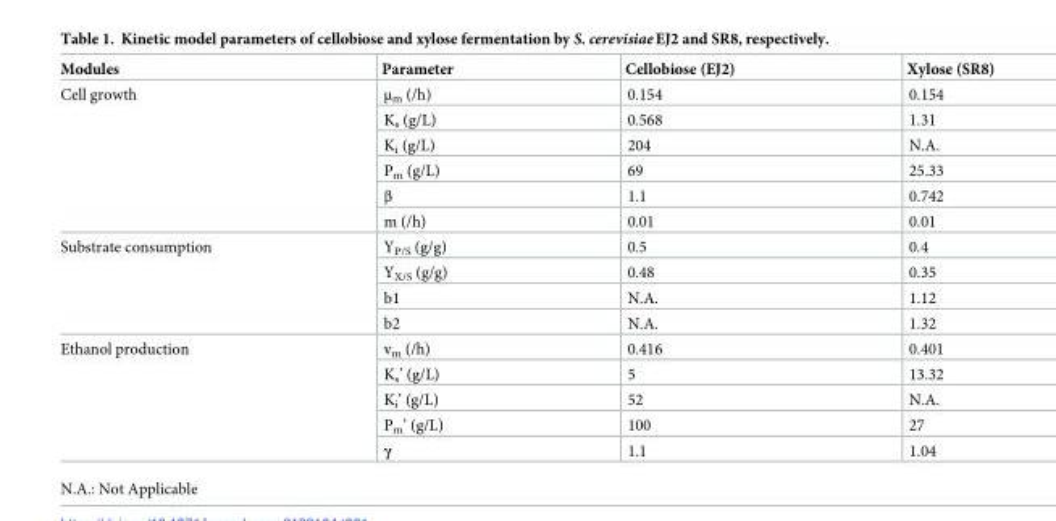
<table><thead><tr><td>Modules</td><td>Parameter</td><td>Cellobiose (EJ2)</td><td>Xylose (SR8)</td></tr></thead><tbody><tr><td rowspan="6">Cell growth</td><td>μ<sub>m</sub> (/h)</td><td>0.154</td><td>0.154</td></tr><tr><td>K<sub>s</sub> (g/L)</td><td>0.568</td><td>1.31</td></tr><tr><td>K<sub>i</sub> (g/L)</td><td>204</td><td>N.A.</td></tr><tr><td>P<sub>m</sub> (g/L)</td><td>69</td><td>25.33</td></tr><tr><td>β</td><td>1.1</td><td>0.742</td></tr><tr><td>m (/h)</td><td>0.01</td><td>0.01</td></tr><tr><td rowspan="4">Substrate consumption</td><td>Y<sub>P/S</sub> (g/g)</td><td>0.5</td><td>0.4</td></tr><tr><td>Y<sub>X/S</sub> (g/g)</td><td>0.48</td><td>0.35</td></tr><tr><td>b1</td><td>N.A.</td><td>1.12</td></tr><tr><td>b2</td><td>N.A.</td><td>1.32</td></tr><tr><td rowspan="5">Ethanol production</td><td>v<sub>m</sub> (/h)</td><td>0.416</td><td>0.401</td></tr><tr><td>K<sub>s</sub>’ (g/L)</td><td>5</td><td>13.32</td></tr><tr><td>K<sub>i</sub>’ (g/L)</td><td>52</td><td>N.A.</td></tr><tr><td>P<sub>m</sub>’ (g/L)</td><td>100</td><td>27</td></tr><tr><td>γ</td><td>1.1</td><td>1.04</td></tr></tbody></table>